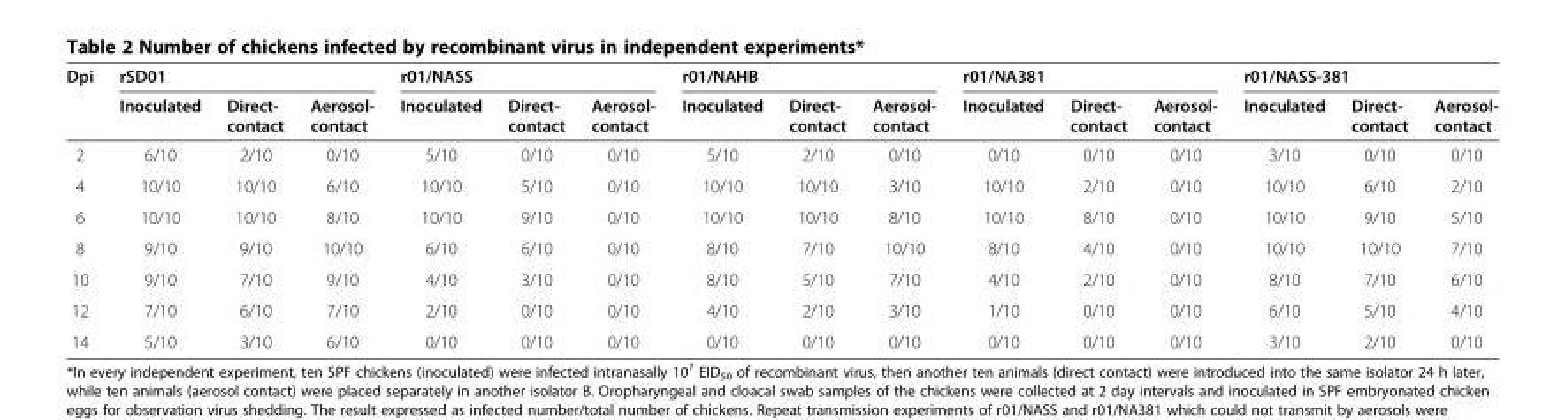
<table><thead><tr><td rowspan="2">Dpi</td><td colspan="3">rSD01</td><td colspan="3">r01/NASS</td><td colspan="3">r01/NAHB</td><td colspan="3">r01/NA381</td><td colspan="3">r01/NASS-381</td></tr><tr><td>Inoculated</td><td>Direct- contact</td><td>Aerosol- contact</td><td>Inoculated</td><td>Direct- contact</td><td>Aerosol- contact</td><td>Inoculated</td><td>Direct- contact</td><td>Aerosol- contact</td><td>Inoculated</td><td>Direct- contact</td><td>Aerosol- contact</td><td>Inoculated</td><td>Direct- contact</td><td>Aerosol- contact</td></tr></thead><tbody><tr><td>2</td><td>6/10</td><td>2/10</td><td>0/10</td><td>5/10</td><td>0/10</td><td>0/10</td><td>5/10</td><td>2/10</td><td>0/10</td><td>0/10</td><td>0/10</td><td>0/10</td><td>3/10</td><td>0/10</td><td>0/10</td></tr><tr><td>4</td><td>10/10</td><td>10/10</td><td>6/10</td><td>10/10</td><td>5/10</td><td>0/10</td><td>10/10</td><td>10/10</td><td>3/10</td><td>10/10</td><td>2/10</td><td>0/10</td><td>10/10</td><td>6/10</td><td>2/10</td></tr><tr><td>6</td><td>10/10</td><td>10/10</td><td>8/10</td><td>10/10</td><td>9/10</td><td>0/10</td><td>10/10</td><td>10/10</td><td>8/10</td><td>10/10</td><td>8/10</td><td>0/10</td><td>10/10</td><td>9/10</td><td>5/10</td></tr><tr><td>8</td><td>9/10</td><td>9/10</td><td>10/10</td><td>6/10</td><td>6/10</td><td>0/10</td><td>8/10</td><td>7/10</td><td>10/10</td><td>8/10</td><td>4/10</td><td>0/10</td><td>10/10</td><td>10/10</td><td>7/10</td></tr><tr><td>10</td><td>9/10</td><td>7/10</td><td>9/10</td><td>4/10</td><td>3/10</td><td>0/10</td><td>8/10</td><td>5/10</td><td>7/10</td><td>4/10</td><td>2/10</td><td>0/10</td><td>8/10</td><td>7/10</td><td>6/10</td></tr><tr><td>12</td><td>7/10</td><td>6/10</td><td>7/10</td><td>2/10</td><td>0/10</td><td>0/10</td><td>4/10</td><td>2/10</td><td>3/10</td><td>1/10</td><td>0/10</td><td>0/10</td><td>6/10</td><td>5/10</td><td>4/10</td></tr><tr><td>14</td><td>5/10</td><td>3/10</td><td>6/10</td><td>0/10</td><td>0/10</td><td>0/10</td><td>0/10</td><td>0/10</td><td>0/10</td><td>0/10</td><td>0/10</td><td>0/10</td><td>3/10</td><td>2/10</td><td>0/10</td></tr></tbody></table>